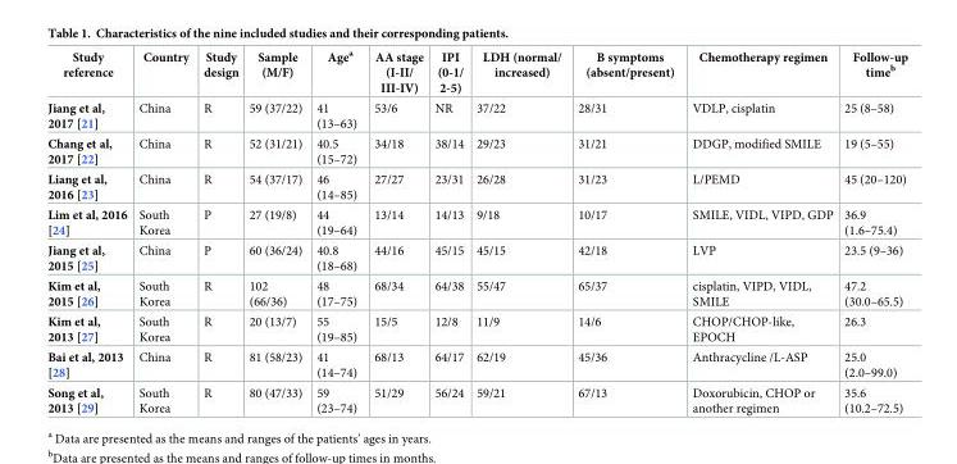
<table><thead><tr><td>Study reference</td><td>Country</td><td>Study design</td><td>Sample (M/F)</td><td>Age<sup>a</sup></td><td>AA stage (I-II/ III-IV)</td><td>IPI (0-1/ 2-5)</td><td>LDH (normal/ increased)</td><td>B symptoms (absent/present)</td><td>Chemotherapy regimen</td><td>Follow-up time<sup>b</sup></td></tr></thead><tbody><tr><td>Jiang et al, 2017 [21]</td><td>China</td><td>R</td><td>59 (37/22)</td><td>41 (13–63)</td><td>53/6</td><td>NR</td><td>37/22</td><td>28/31</td><td>VDLP, cisplatin</td><td>25 (8–58)</td></tr><tr><td>Chang et al, 2017 [22]</td><td>China</td><td>R</td><td>52 (31/21)</td><td>40.5 (15–72)</td><td>34/18</td><td>38/14</td><td>29/23</td><td>31/21</td><td>DDGP, modified SMILE</td><td>19 (5–55)</td></tr><tr><td>Liang et al, 2016 [23]</td><td>China</td><td>R</td><td>54 (37/17)</td><td>46 (14–85)</td><td>27/27</td><td>23/31</td><td>26/28</td><td>31/23</td><td>L/PEMD</td><td>45 (20–120)</td></tr><tr><td>Lim et al, 2016 [24]</td><td>South Korea</td><td>P</td><td>27 (19/8)</td><td>44 (19–64)</td><td>13/14</td><td>14/13</td><td>9/18</td><td>10/17</td><td>SMILE, VIDL, VIPD, GDP</td><td>36.9 (1.6–75.4)</td></tr><tr><td>Jiang et al, 2015 [25]</td><td>China</td><td>P</td><td>60 (36/24)</td><td>40.8 (18–68)</td><td>44/16</td><td>45/15</td><td>45/15</td><td>42/18</td><td>LVP</td><td>23.5 (9–36)</td></tr><tr><td>Kim et al, 2015 [26]</td><td>South Korea</td><td>R</td><td>102 (66/36)</td><td>48 (17–75)</td><td>68/34</td><td>64/38</td><td>55/47</td><td>65/37</td><td>cisplatin, VIPD, VIDL, SMILE</td><td>47.2 (30.0–65.5)</td></tr><tr><td>Kim et al, 2013 [27]</td><td>South Korea</td><td>R</td><td>20 (13/7)</td><td>55 (19–85)</td><td>15/5</td><td>12/8</td><td>11/9</td><td>14/6</td><td>CHOP/CHOP-like, EPOCH</td><td>26.3</td></tr><tr><td>Bai et al, 2013 [28]</td><td>China</td><td>R</td><td>81 (58/23)</td><td>41 (14–74)</td><td>68/13</td><td>64/17</td><td>62/19</td><td>45/36</td><td>Anthracycline /L-ASP</td><td>25.0 (2.0–99.0)</td></tr><tr><td>Song et al, 2013 [29]</td><td>South Korea</td><td>R</td><td>80 (47/33)</td><td>59 (23–74)</td><td>51/29</td><td>56/24</td><td>59/21</td><td>67/13</td><td>Doxorubicin, CHOP or another regimen</td><td>35.6 (10.2–72.5)</td></tr></tbody></table>